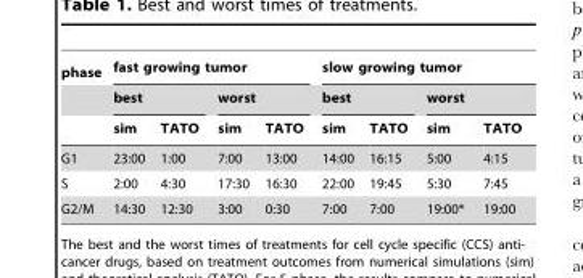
<table><thead><tr><td rowspan="3">phase</td><td colspan="4">fast growing tumor</td><td colspan="4">slow growing tumor</td></tr><tr><td colspan="2">best</td><td colspan="2">worst</td><td colspan="2">best</td><td colspan="2">worst</td></tr><tr><td>sim</td><td>TATO</td><td>sim</td><td>TATO</td><td>sim</td><td>TATO</td><td>sim</td><td>TATO</td></tr></thead><tbody><tr><td>G1</td><td>23:00</td><td>1:00</td><td>7:00</td><td>13:00</td><td>14:00</td><td>16:15</td><td>5:00</td><td>4:15</td></tr><tr><td>S</td><td>2:00</td><td>4:30</td><td>17:30</td><td>16:30</td><td>22:00</td><td>19:45</td><td>5:30</td><td>7:45</td></tr><tr><td>G2/M</td><td>14:30</td><td>12:30</td><td>3:00</td><td>0:30</td><td>7:00</td><td>7:00</td><td>19:00*</td><td>19:00</td></tr></tbody></table>